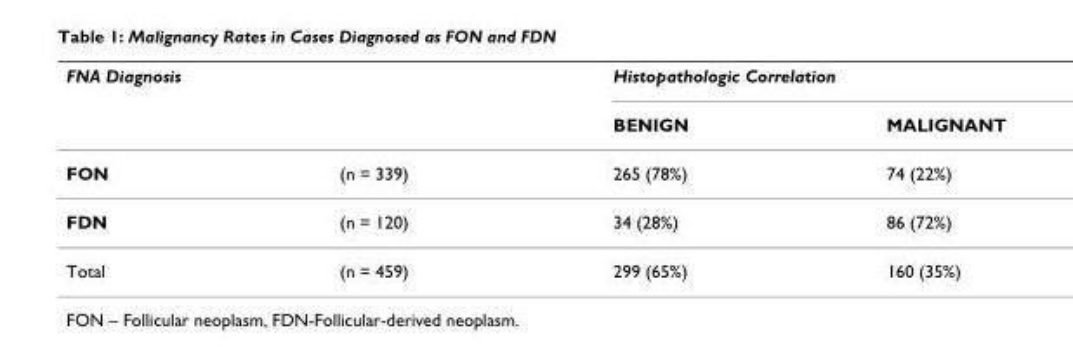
<table><thead><tr><td colspan="2">FNA Diagnosis</td><td colspan="2">Histopathologic Correlation</td></tr><tr><td></td><td></td><td>BENIGN</td><td>MALIGNANT</td></tr></thead><tbody><tr><td>FON</td><td>(n = 339)</td><td>265 (78%)</td><td>74 (22%)</td></tr><tr><td>FDN</td><td>(n = 120)</td><td>34 (28%)</td><td>86 (72%)</td></tr><tr><td>Total</td><td>(n = 459)</td><td>299 (65%)</td><td>160 (35%)</td></tr></tbody></table>